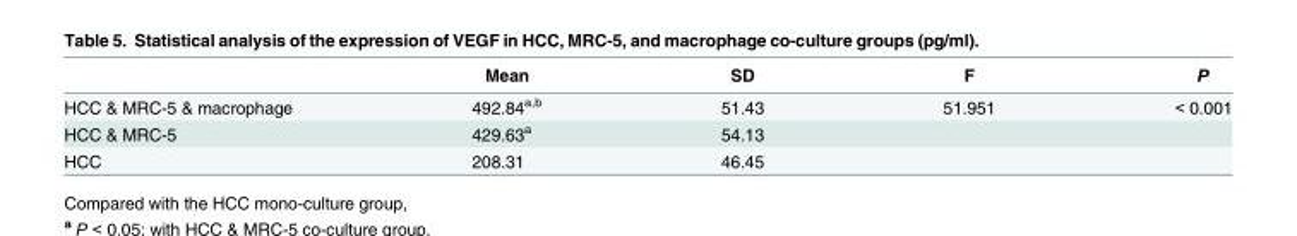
<table><thead><tr><td></td><td>Mean</td><td>SD</td><td>F</td><td>P</td></tr></thead><tbody><tr><td>HCC &amp; MRC-5 &amp; macrophage</td><td>492.84<sup>a,b</sup></td><td>51.43</td><td>51.951</td><td>&lt; 0.001</td></tr><tr><td>HCC &amp; MRC-5</td><td>429.63<sup>a</sup></td><td>54.13</td><td></td><td></td></tr><tr><td>HCC</td><td>208.31</td><td>46.45</td><td></td><td></td></tr></tbody></table>